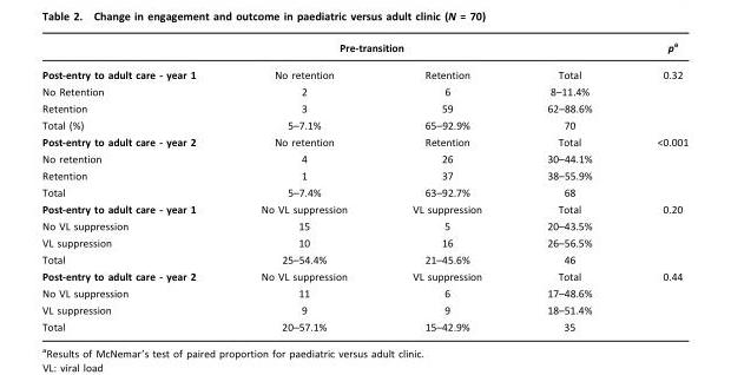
<table><thead><tr><td rowspan="2">Post-entry to adult care - year 1</td><td colspan="2">Pre-transition</td><td rowspan="2">Total</td><td rowspan="2">p<sup>a</sup> 0.32</td></tr><tr><td>No retention</td><td>Retention</td></tr></thead><tbody><tr><td>No Retention</td><td>2</td><td>6</td><td>8–11.4%</td><td></td></tr><tr><td>Retention</td><td>3</td><td>59</td><td>62–88.6%</td><td></td></tr><tr><td>Total (%)</td><td>5–7.1%</td><td>65–92.9%</td><td>70</td><td></td></tr><tr><td>Post-entry to adult care - year 2</td><td>No retention</td><td>Retention</td><td>Total</td><td>&lt;0.001</td></tr><tr><td>No retention</td><td>4</td><td>26</td><td>30–44.1%</td><td></td></tr><tr><td>Retention</td><td>1</td><td>37</td><td>38–55.9%</td><td></td></tr><tr><td>Total</td><td>5–7.4%</td><td>63–92.7%</td><td>68</td><td></td></tr><tr><td>Post-entry to adult care - year 1</td><td>No VL suppression</td><td>VL suppression</td><td>Total</td><td>0.20</td></tr><tr><td>No VL suppression</td><td>15</td><td>5</td><td>20–43.5%</td><td></td></tr><tr><td>VL suppression</td><td>10</td><td>16</td><td>26–56.5%</td><td></td></tr><tr><td>Total</td><td>25–54.4%</td><td>21–45.6%</td><td>46</td><td></td></tr><tr><td>Post-entry to adult care - year 2</td><td>No VL suppression</td><td>VL suppression</td><td>Total</td><td>0.44</td></tr><tr><td>No VL suppression</td><td>11</td><td>6</td><td>17–48.6%</td><td></td></tr><tr><td>VL suppression</td><td>9</td><td>9</td><td>18–51.4%</td><td></td></tr><tr><td>Total</td><td>20–57.1%</td><td>15–42.9%</td><td>35</td><td></td></tr></tbody></table>